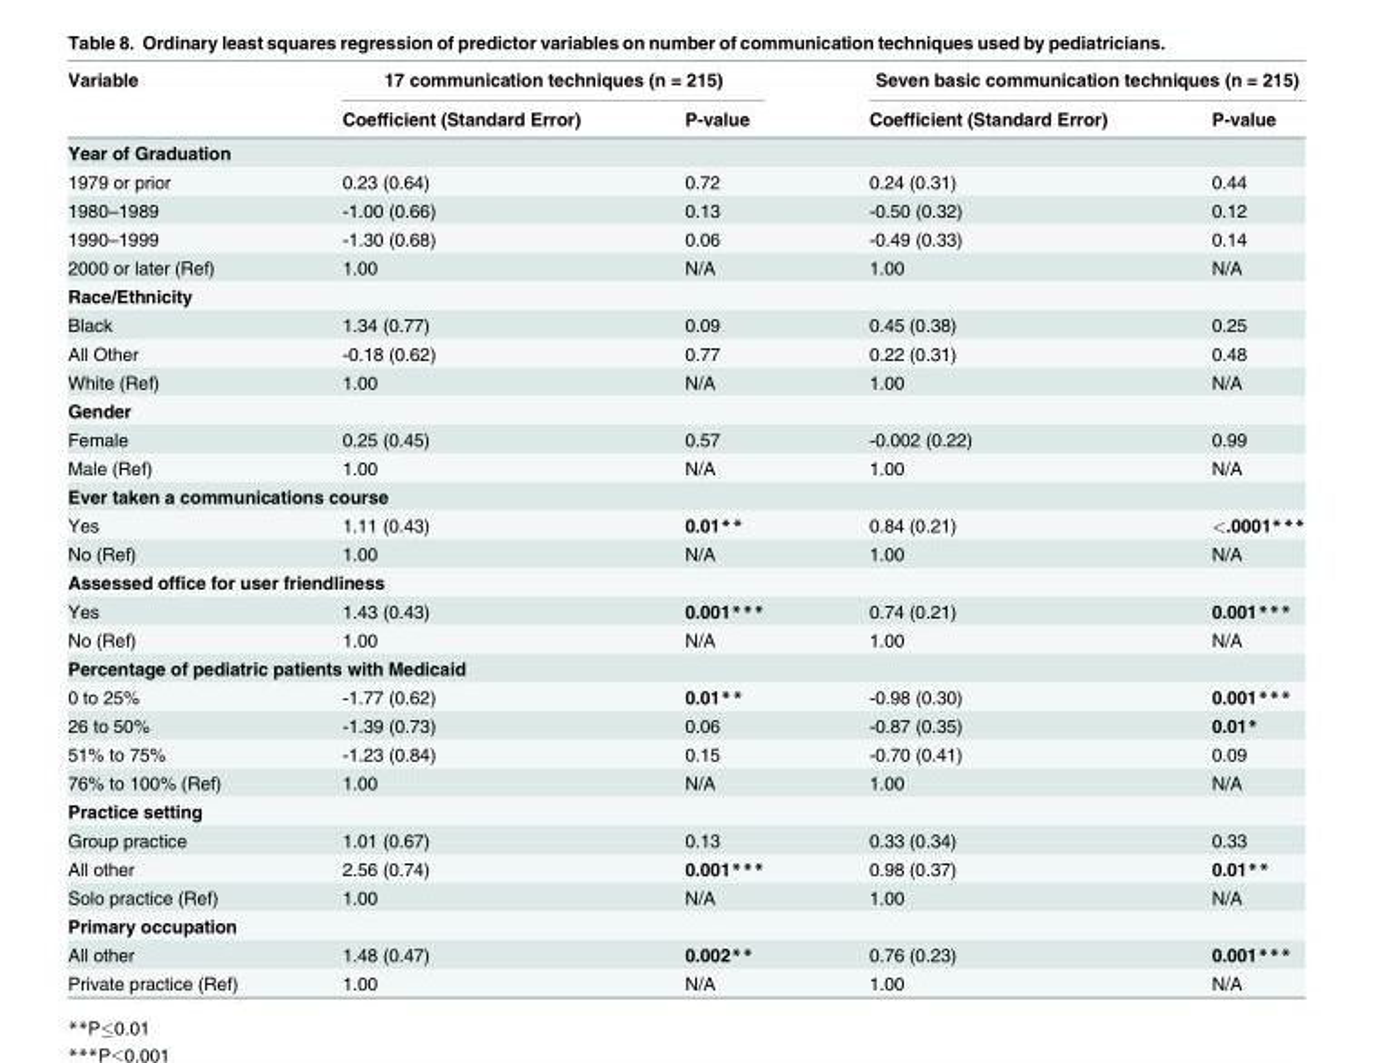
<table><thead><tr><td rowspan="2">Variable</td><td colspan="2">17 communication techniques (n = 215)</td><td colspan="2">Seven basic communication techniques (n = 215)</td></tr><tr><td>Coefficient (Standard Error)</td><td>P-value</td><td>Coefficient (Standard Error)</td><td>P-value</td></tr></thead><tbody><tr><td colspan="5">Year of Graduation</td></tr><tr><td>1979 or prior</td><td>0.23 (0.64)</td><td>0.72</td><td>0.24 (0.31)</td><td>0.44</td></tr><tr><td>1980–1989</td><td>-1.00 (0.66)</td><td>0.13</td><td>-0.50 (0.32)</td><td>0.12</td></tr><tr><td>1990–1999</td><td>-1.30 (0.68)</td><td>0.06</td><td>-0.49 (0.33)</td><td>0.14</td></tr><tr><td>2000 or later (Ref)</td><td>1.00</td><td>N/A</td><td>1.00</td><td>N/A</td></tr><tr><td colspan="5">Race/Ethnicity</td></tr><tr><td>Black</td><td>1.34 (0.77)</td><td>0.09</td><td>0.45 (0.38)</td><td>0.25</td></tr><tr><td>All Other</td><td>-0.18 (0.62)</td><td>0.77</td><td>0.22 (0.31)</td><td>0.48</td></tr><tr><td>White (Ref)</td><td>1.00</td><td>N/A</td><td>1.00</td><td>N/A</td></tr><tr><td colspan="5">Gender</td></tr><tr><td>Female</td><td>0.25 (0.45)</td><td>0.57</td><td>-0.002 (0.22)</td><td>0.99</td></tr><tr><td>Male (Ref)</td><td>1.00</td><td>N/A</td><td>1.00</td><td>N/A</td></tr><tr><td colspan="5">Ever taken a communications course</td></tr><tr><td>Yes</td><td>1.11 (0.43)</td><td>0.01**</td><td>0.84 (0.21)</td><td>&lt;.0001***</td></tr><tr><td>No (Ref)</td><td>1.00</td><td>N/A</td><td>1.00</td><td>N/A</td></tr><tr><td colspan="5">Assessed office for user friendliness</td></tr><tr><td>Yes</td><td>1.43 (0.43)</td><td>0.001***</td><td>0.74 (0.21)</td><td>0.001***</td></tr><tr><td>No (Ref)</td><td>1.00</td><td>N/A</td><td>1.00</td><td>N/A</td></tr><tr><td colspan="5">Percentage of pediatric patients with Medicaid</td></tr><tr><td>0 to 25%</td><td>-1.77 (0.62)</td><td>0.01**</td><td>-0.98 (0.30)</td><td>0.001***</td></tr><tr><td>26 to 50%</td><td>-1.39 (0.73)</td><td>0.06</td><td>-0.87 (0.35)</td><td>0.01*</td></tr><tr><td>51% to 75%</td><td>-1.23 (0.84)</td><td>0.15</td><td>-0.70 (0.41)</td><td>0.09</td></tr><tr><td>76% to 100% (Ref)</td><td>1.00</td><td>N/A</td><td>1.00</td><td>N/A</td></tr><tr><td colspan="5">Practice setting</td></tr><tr><td>Group practice</td><td>1.01 (0.67)</td><td>0.13</td><td>0.33 (0.34)</td><td>0.33</td></tr><tr><td>All other</td><td>2.56 (0.74)</td><td>0.001***</td><td>0.98 (0.37)</td><td>0.01**</td></tr><tr><td>Solo practice (Ref)</td><td>1.00</td><td>N/A</td><td>1.00</td><td>N/A</td></tr><tr><td colspan="5">Primary occupation</td></tr><tr><td>All other</td><td>1.48 (0.47)</td><td>0.002**</td><td>0.76 (0.23)</td><td>0.001***</td></tr><tr><td>Private practice (Ref)</td><td>1.00</td><td>N/A</td><td>1.00</td><td>N/A</td></tr></tbody></table>